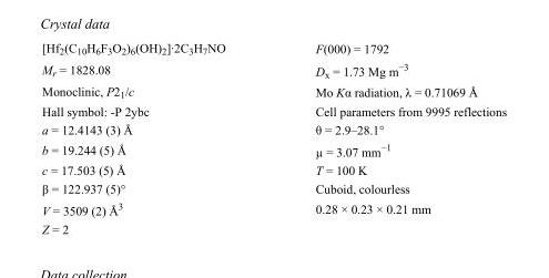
<table><tbody><tr><td>[Hf<sub>2</sub>(C<sub>10</sub>H<sub>6</sub>F<sub>3</sub>O<sub>2</sub>)<sub>6</sub>(OH)<sub>2</sub>]·2C<sub>3</sub>H<sub>7</sub>NO</td><td>F(000) = 1792</td></tr><tr><td>M<sub>r</sub> = 1828.08</td><td>D<sub>x</sub> = 1.73 Mg m<sup>−3</sup></td></tr><tr><td>Monoclinic, P2<sub>1</sub>/c</td><td>Mo Kα radiation, λ = 0.71069 Å</td></tr><tr><td>Hall symbol: -P 2ybc</td><td>Cell parameters from 9995 reflections</td></tr><tr><td>a = 12.4143 (3) Å</td><td>θ = 2.9–28.1°</td></tr><tr><td>b = 19.244 (5) Å</td><td>µ = 3.07 mm<sup>−1</sup></td></tr><tr><td>c = 17.503 (5) Å</td><td>T = 100 K</td></tr><tr><td>β = 122.937 (5)°</td><td>Cuboid, colourless</td></tr><tr><td>V = 3509 (2) Å<sup>3</sup></td><td>0.28 × 0.23 × 0.21 mm</td></tr><tr><td>Z = 2</td><td></td></tr></tbody></table>